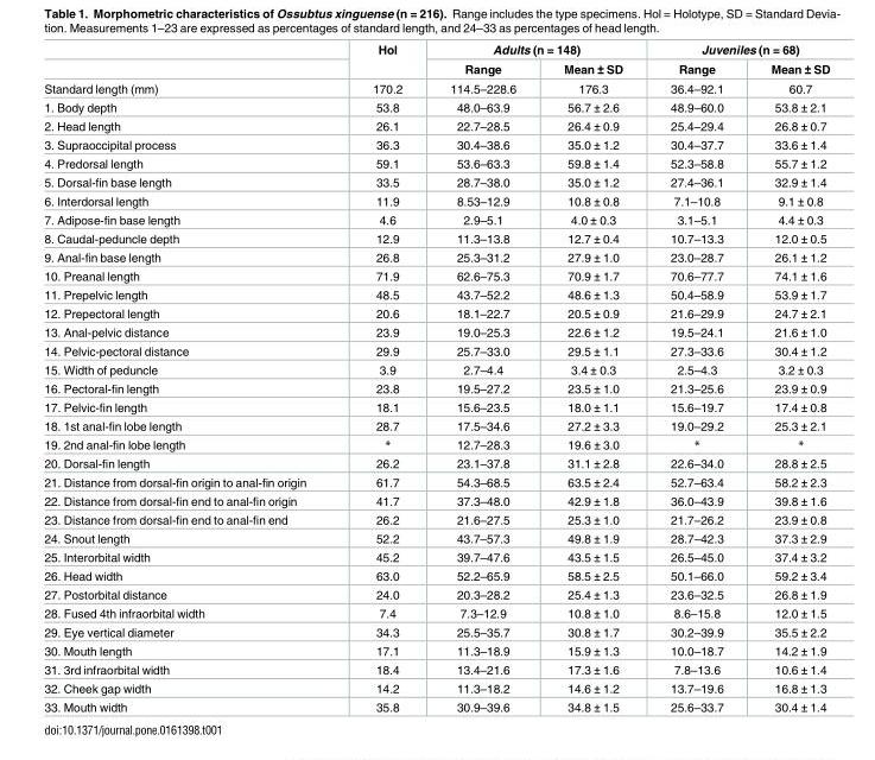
<table><thead><tr><td rowspan="2"></td><td rowspan="2">Hol</td><td colspan="2">Adults (n = 148)</td><td colspan="2">Juveniles (n = 68)</td></tr><tr><td>Range</td><td>Mean ± SD</td><td>Range</td><td>Mean ± SD</td></tr></thead><tbody><tr><td>Standard length (mm)</td><td>170.2</td><td>114.5–228.6</td><td>176.3</td><td>36.4–92.1</td><td>60.7</td></tr><tr><td>1. Body depth</td><td>53.8</td><td>48.0–63.9</td><td>56.7 ± 2.6</td><td>48.9–60.0</td><td>53.8 ± 2.1</td></tr><tr><td>2. Head length</td><td>26.1</td><td>22.7–28.5</td><td>26.4 ± 0.9</td><td>25.4–29.4</td><td>26.8 ± 0.7</td></tr><tr><td>3. Supraoccipital process</td><td>36.3</td><td>30.4–38.6</td><td>35.0 ± 1.2</td><td>30.4–37.7</td><td>33.6 ± 1.4</td></tr><tr><td>4. Predorsal length</td><td>59.1</td><td>53.6–63.3</td><td>59.8 ± 1.4</td><td>52.3–58.8</td><td>55.7 ± 1.2</td></tr><tr><td>5. Dorsal-fin base length</td><td>33.5</td><td>28.7–38.0</td><td>35.0 ± 1.2</td><td>27.4–36.1</td><td>32.9 ± 1.4</td></tr><tr><td>6. Interdorsal length</td><td>11.9</td><td>8.53–12.9</td><td>10.8 ± 0.8</td><td>7.1–10.8</td><td>9.1 ± 0.8</td></tr><tr><td>7. Adipose-fin base length</td><td>4.6</td><td>2.9–5.1</td><td>4.0 ± 0.3</td><td>3.1–5.1</td><td>4.4 ± 0.3</td></tr><tr><td>8. Caudal-peduncle depth</td><td>12.9</td><td>11.3–13.8</td><td>12.7 ± 0.4</td><td>10.7–13.3</td><td>12.0 ± 0.5</td></tr><tr><td>9. Anal-fin base length</td><td>26.8</td><td>25.3–31.2</td><td>27.9 ± 1.0</td><td>23.0–28.7</td><td>26.1 ± 1.2</td></tr><tr><td>10. Preanal length</td><td>71.9</td><td>62.6–75.3</td><td>70.9 ± 1.7</td><td>70.6–77.7</td><td>74.1 ± 1.6</td></tr><tr><td>11. Prepelvic length</td><td>48.5</td><td>43.7–52.2</td><td>48.6 ± 1.3</td><td>50.4–58.9</td><td>53.9 ± 1.7</td></tr><tr><td>12. Prepectoral length</td><td>20.6</td><td>18.1–22.7</td><td>20.5 ± 0.9</td><td>21.6–29.9</td><td>24.7 ± 2.1</td></tr><tr><td>13. Anal-pelvic distance</td><td>23.9</td><td>19.0–25.3</td><td>22.6 ± 1.2</td><td>19.5–24.1</td><td>21.6 ± 1.0</td></tr><tr><td>14. Pelvic-pectoral distance</td><td>29.9</td><td>25.7–33.0</td><td>29.5 ± 1.1</td><td>27.3–33.6</td><td>30.4 ± 1.2</td></tr><tr><td>15. Width of peduncle</td><td>3.9</td><td>2.7–4.4</td><td>3.4 ± 0.3</td><td>2.5–4.3</td><td>3.2 ± 0.3</td></tr><tr><td>16. Pectoral-fin length</td><td>23.8</td><td>19.5–27.2</td><td>23.5 ± 1.0</td><td>21.3–25.6</td><td>23.9 ± 0.9</td></tr><tr><td>17. Pelvic-fin length</td><td>18.1</td><td>15.6–23.5</td><td>18.0 ± 1.1</td><td>15.6–19.7</td><td>17.4 ± 0.8</td></tr><tr><td>18. 1st anal-fin lobe length</td><td>28.7</td><td>17.5–34.6</td><td>27.2 ± 3.3</td><td>19.0–29.2</td><td>25.3 ± 2.1</td></tr><tr><td>19. 2nd anal-fin lobe length</td><td>*</td><td>12.7–28.3</td><td>19.6 ± 3.0</td><td>*</td><td>*</td></tr><tr><td>20. Dorsal-fin length</td><td>26.2</td><td>23.1–37.8</td><td>31.1 ± 2.8</td><td>22.6–34.0</td><td>28.8 ± 2.5</td></tr><tr><td>21. Distance from dorsal-fin origin to anal-fin origin</td><td>61.7</td><td>54.3–68.5</td><td>63.5 ± 2.4</td><td>52.7–63.4</td><td>58.2 ± 2.3</td></tr><tr><td>22. Distance from dorsal-fin end to anal-fin origin</td><td>41.7</td><td>37.3–48.0</td><td>42.9 ± 1.8</td><td>36.0–43.9</td><td>39.8 ± 1.6</td></tr><tr><td>23. Distance from dorsal-fin end to anal-fin end</td><td>26.2</td><td>21.6–27.5</td><td>25.3 ± 1.0</td><td>21.7–26.2</td><td>23.9 ± 0.8</td></tr><tr><td>24. Snout length</td><td>52.2</td><td>43.7–57.3</td><td>49.8 ± 1.9</td><td>28.7–42.3</td><td>37.3 ± 2.9</td></tr><tr><td>25. Interorbital width</td><td>45.2</td><td>39.7–47.6</td><td>43.5 ± 1.5</td><td>26.5–45.0</td><td>37.4 ± 3.2</td></tr><tr><td>26. Head width</td><td>63.0</td><td>52.2–65.9</td><td>58.5 ± 2.5</td><td>50.1–66.0</td><td>59.2 ± 3.4</td></tr><tr><td>27. Postorbital distance</td><td>24.0</td><td>20.3–28.2</td><td>25.4 ± 1.3</td><td>23.6–32.5</td><td>26.8 ± 1.9</td></tr><tr><td>28. Fused 4th infraorbital width</td><td>7.4</td><td>7.3–12.9</td><td>10.8 ± 1.0</td><td>8.6–15.8</td><td>12.0 ± 1.5</td></tr><tr><td>29. Eye vertical diameter</td><td>34.3</td><td>25.5–35.7</td><td>30.8 ± 1.7</td><td>30.2–39.9</td><td>35.5 ± 2.2</td></tr><tr><td>30. Mouth length</td><td>17.1</td><td>11.3–18.9</td><td>15.9 ± 1.3</td><td>10.0–18.7</td><td>14.2 ± 1.9</td></tr><tr><td>31. 3rd infraorbital width</td><td>18.4</td><td>13.4–21.6</td><td>17.3 ± 1.6</td><td>7.8–13.6</td><td>10.6 ± 1.4</td></tr><tr><td>32. Cheek gap width</td><td>14.2</td><td>11.3–18.2</td><td>14.6 ± 1.2</td><td>13.7–19.6</td><td>16.8 ± 1.3</td></tr><tr><td>33. Mouth width</td><td>35.8</td><td>30.9–39.6</td><td>34.8 ± 1.5</td><td>25.6–33.7</td><td>30.4 ± 1.4</td></tr></tbody></table>